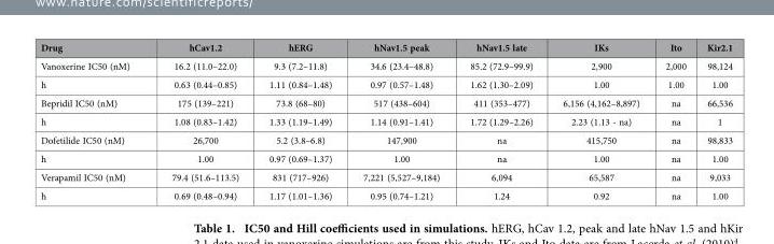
<table><thead><tr><td>Drug</td><td>hCav1.2</td><td>hERG</td><td>hNav1.5 peak</td><td>hNav1.5 late</td><td>IKs</td><td>Ito</td><td>Kir2.1</td></tr></thead><tbody><tr><td>Vanoxerine IC50 (nM)</td><td>16.2 (11.0–22.0)</td><td>9.3 (7.2–11.8)</td><td>34.6 (23.4–48.8)</td><td>85.2 (72.9–99.9)</td><td>2,900</td><td>2,000</td><td>98,124</td></tr><tr><td>h</td><td>0.63 (0.44–0.85)</td><td>1.11 (0.84–1.48)</td><td>0.97 (0.57–1.48)</td><td>1.62 (1.30–2.09)</td><td>1.00</td><td>1.00</td><td>1.00</td></tr><tr><td>Bepridil IC50 (nM)</td><td>175 (139–221)</td><td>73.8 (68–80)</td><td>517 (438–604)</td><td>411 (353–477)</td><td>6,156 (4,162–8,897)</td><td>na</td><td>66,536</td></tr><tr><td>h</td><td>1.08 (0.83–1.42)</td><td>1.33 (1.19–1.49)</td><td>1.14 (0.91–1.41)</td><td>1.72 (1.29–2.26)</td><td>2.23 (1.13 - na)</td><td>na</td><td>1</td></tr><tr><td>Dofetilide IC50 (nM)</td><td>26,700</td><td>5.2 (3.8–6.8)</td><td>147,900</td><td>na</td><td>415,750</td><td>na</td><td>98,833</td></tr><tr><td>h</td><td>1.00</td><td>0.97 (0.69–1.37)</td><td>1.00</td><td>na</td><td>1.00</td><td>na</td><td>1.00</td></tr><tr><td>Verapamil IC50 (nM)</td><td>79.4 (51.6–113.5)</td><td>831 (717–926)</td><td>7,221 (5,527–9,184)</td><td>6,094</td><td>65,587</td><td>na</td><td>9,033</td></tr><tr><td>h</td><td>0.69 (0.48–0.94)</td><td>1.17 (1.01–1.36)</td><td>0.95 (0.74–1.21)</td><td>1.24</td><td>0.92</td><td>na</td><td>1.00</td></tr></tbody></table>